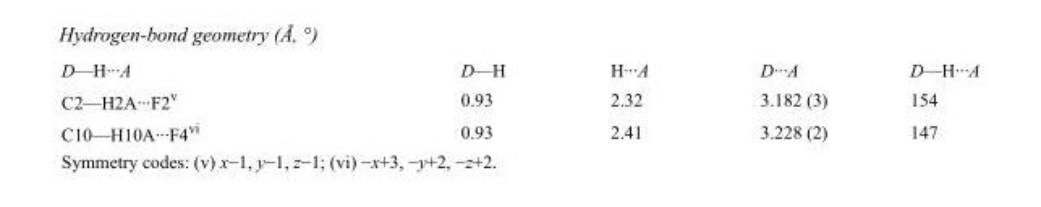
<table><tbody><tr><td>D—H···A</td><td>D—H</td><td>H···A</td><td>D···A</td><td>D—H···A</td></tr><tr><td>C2—H2A···F2<sup>v</sup></td><td>0.93</td><td>2.32</td><td>3.182 (3)</td><td>154</td></tr><tr><td>C10—H10A···F4<sup>vi</sup></td><td>0.93</td><td>2.41</td><td>3.228 (2)</td><td>147</td></tr></tbody></table>